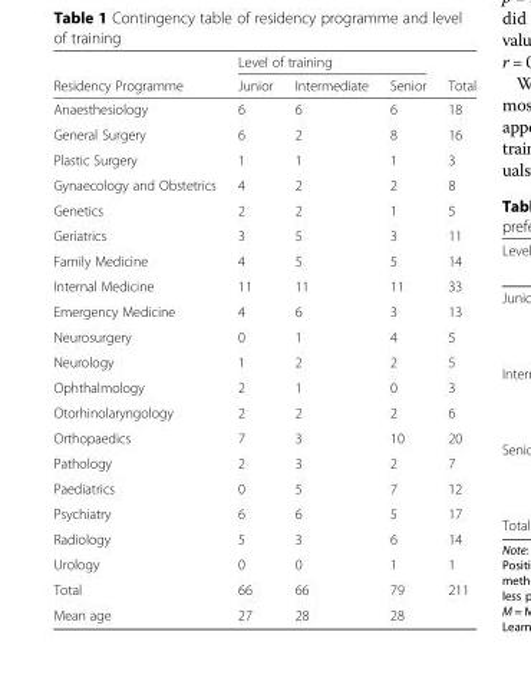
<table><thead><tr><td rowspan="2">Residency Programme</td><td colspan="3">Level of training</td><td rowspan="2">Total</td></tr><tr><td>Junior</td><td>Intermediate</td><td>Senior</td></tr></thead><tbody><tr><td>Anaesthesiology</td><td>6</td><td>6</td><td>6</td><td>18</td></tr><tr><td>General Surgery</td><td>6</td><td>2</td><td>8</td><td>16</td></tr><tr><td>Plastic Surgery</td><td>1</td><td>1</td><td>1</td><td>3</td></tr><tr><td>Gynaecology and Obstetrics</td><td>4</td><td>2</td><td>2</td><td>8</td></tr><tr><td>Genetics</td><td>2</td><td>2</td><td>1</td><td>5</td></tr><tr><td>Geriatrics</td><td>3</td><td>5</td><td>3</td><td>11</td></tr><tr><td>Family Medicine</td><td>4</td><td>5</td><td>5</td><td>14</td></tr><tr><td>Internal Medicine</td><td>11</td><td>11</td><td>11</td><td>33</td></tr><tr><td>Emergency Medicine</td><td>4</td><td>6</td><td>3</td><td>13</td></tr><tr><td>Neurosurgery</td><td>0</td><td>1</td><td>4</td><td>5</td></tr><tr><td>Neurology</td><td>1</td><td>2</td><td>2</td><td>5</td></tr><tr><td>Ophthalmology</td><td>2</td><td>1</td><td>0</td><td>3</td></tr><tr><td>Otorhinolaryngology</td><td>2</td><td>2</td><td>2</td><td>6</td></tr><tr><td>Orthopaedics</td><td>7</td><td>3</td><td>10</td><td>20</td></tr><tr><td>Pathology</td><td>2</td><td>3</td><td>2</td><td>7</td></tr><tr><td>Paediatrics</td><td>0</td><td>5</td><td>7</td><td>12</td></tr><tr><td>Psychiatry</td><td>6</td><td>6</td><td>5</td><td>17</td></tr><tr><td>Radiology</td><td>5</td><td>3</td><td>6</td><td>14</td></tr><tr><td>Urology</td><td>0</td><td>0</td><td>1</td><td>1</td></tr><tr><td>Total</td><td>66</td><td>66</td><td>79</td><td>211</td></tr><tr><td>Mean age</td><td>27</td><td>28</td><td>28</td><td></td></tr></tbody></table>